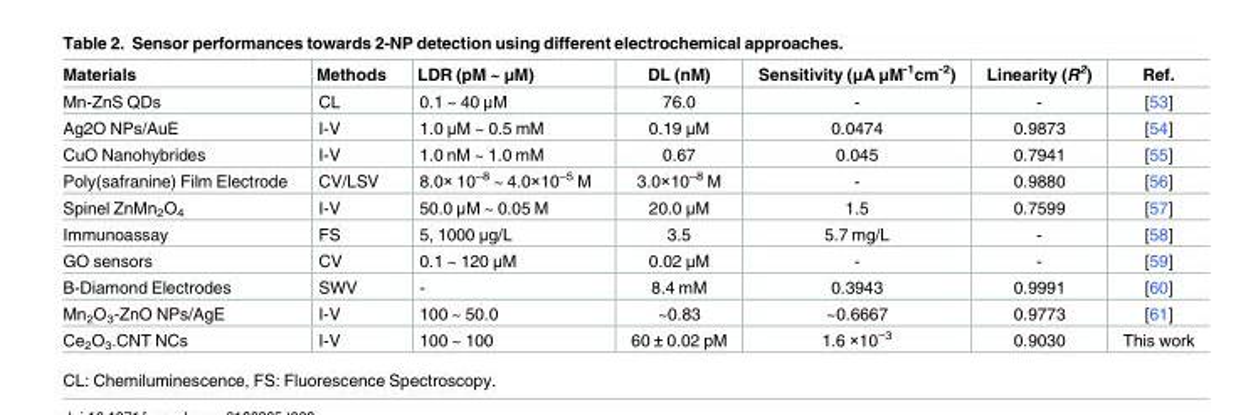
<table><thead><tr><td>Materials</td><td>Methods</td><td>LDR (pM ~ μM)</td><td>DL (nM)</td><td>Sensitivity (μA μM<sup>-1</sup>cm<sup>-2</sup>)</td><td>Linearity (R<sup>2</sup>)</td><td>Ref.</td></tr></thead><tbody><tr><td>Mn-ZnS QDs</td><td>CL</td><td>0.1 ~ 40 μM</td><td>76.0</td><td>-</td><td>-</td><td>[53]</td></tr><tr><td>Ag2O NPs/AuE</td><td>I-V</td><td>1.0 μM ~ 0.5 mM</td><td>0.19 μM</td><td>0.0474</td><td>0.9873</td><td>[54]</td></tr><tr><td>CuO Nanohybrides</td><td>I-V</td><td>1.0 nM ~ 1.0 mM</td><td>0.67</td><td>0.045</td><td>0.7941</td><td>[55]</td></tr><tr><td>Poly(safranine) Film Electrode</td><td>CV/LSV</td><td>8.0× 10<sup>–8</sup> ~ 4.0×10<sup>–5</sup> M</td><td>3.0×10<sup>–8</sup> M</td><td>-</td><td>0.9880</td><td>[56]</td></tr><tr><td>Spinel ZnMn<sub>2</sub>O<sub>4</sub></td><td>I-V</td><td>50.0 μM ~ 0.05 M</td><td>20.0 μM</td><td>1.5</td><td>0.7599</td><td>[57]</td></tr><tr><td>Immunoassay</td><td>FS</td><td>5, 1000 μg/L</td><td>3.5</td><td>5.7 mg/L</td><td>-</td><td>[58]</td></tr><tr><td>GO sensors</td><td>CV</td><td>0.1 ~ 120 μM</td><td>0.02 μM</td><td>-</td><td>-</td><td>[59]</td></tr><tr><td>B-Diamond Electrodes</td><td>SWV</td><td>-</td><td>8.4 mM</td><td>0.3943</td><td>0.9991</td><td>[60]</td></tr><tr><td>Mn<sub>2</sub>O<sub>3</sub>-ZnO NPs/AgE</td><td>I-V</td><td>100 ~ 50.0</td><td>~0.83</td><td>~0.6667</td><td>0.9773</td><td>[61]</td></tr><tr><td>Ce<sub>2</sub>O<sub>3</sub>.CNT NCs</td><td>I-V</td><td>100 ~ 100</td><td>60 ± 0.02 pM</td><td>1.6 ×10<sup>−3</sup></td><td>0.9030</td><td>This work</td></tr></tbody></table>